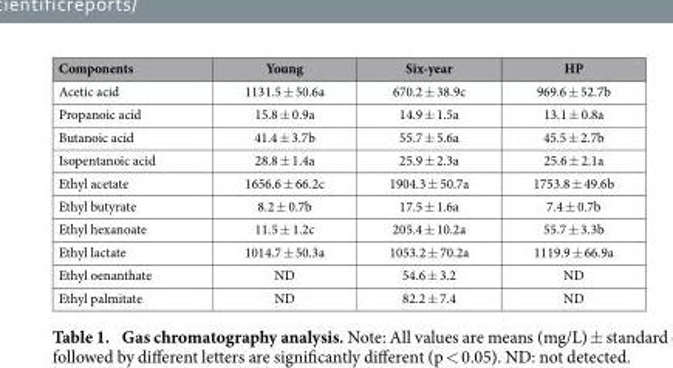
<table><thead><tr><td>Components</td><td>Young</td><td>Six-year</td><td>HP</td></tr></thead><tbody><tr><td>Acetic acid</td><td>1131.5 ± 50.6a</td><td>670.2 ± 38.9c</td><td>969.6 ± 52.7b</td></tr><tr><td>Propanoic acid</td><td>15.8 ± 0.9a</td><td>14.9 ± 1.5a</td><td>13.1 ± 0.8a</td></tr><tr><td>Butanoic acid</td><td>41.4 ± 3.7b</td><td>55.7 ± 5.6a</td><td>45.5 ± 2.7b</td></tr><tr><td>Isopentanoic acid</td><td>28.8 ± 1.4a</td><td>25.9 ± 2.3a</td><td>25.6 ± 2.1a</td></tr><tr><td>Ethyl acetate</td><td>1656.6 ± 66.2c</td><td>1904.3 ± 50.7a</td><td>1753.8 ± 49.6b</td></tr><tr><td>Ethyl butyrate</td><td>8.2 ± 0.7b</td><td>17.5 ± 1.6a</td><td>7.4 ± 0.7b</td></tr><tr><td>Ethyl hexanoate</td><td>11.5 ± 1.2c</td><td>205.4 ± 10.2a</td><td>55.7 ± 3.3b</td></tr><tr><td>Ethyl lactate</td><td>1014.7 ± 50.3a</td><td>1053.2 ± 70.2a</td><td>1119.9 ± 66.9a</td></tr><tr><td>Ethyl oenanthate</td><td>ND</td><td>54.6 ± 3.2</td><td>ND</td></tr><tr><td>Ethyl palmitate</td><td>ND</td><td>82.2 ± 7.4</td><td>ND</td></tr></tbody></table>